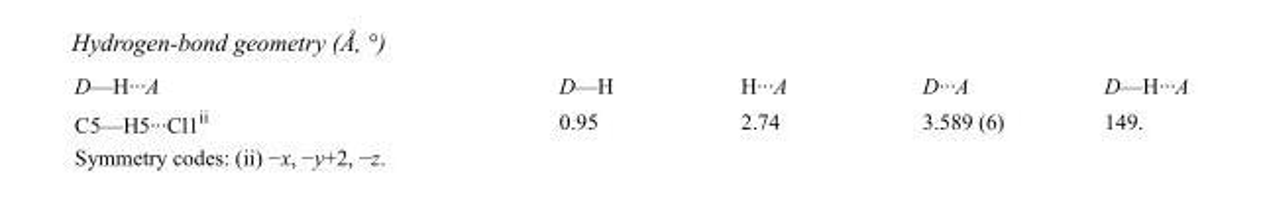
<table><tbody><tr><td>D—H···A</td><td>D—H</td><td>H···A</td><td>D···A</td><td>D—H···A</td></tr><tr><td>C5—H5···Cl1<sup>ii</sup></td><td>0.95</td><td>2.74</td><td>3.589 (6)</td><td>149.</td></tr></tbody></table>